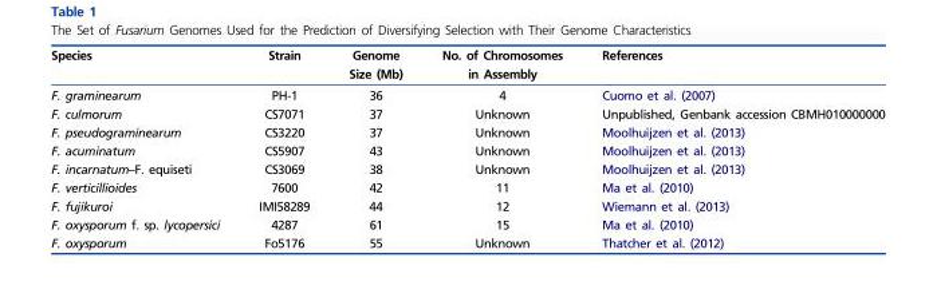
<table><thead><tr><td>Species</td><td>Strain</td><td>Genome Size (Mb)</td><td>No. of Chromosomes in Assembly</td><td>References</td></tr></thead><tbody><tr><td>F. graminearum</td><td>PH-1</td><td>36</td><td>4</td><td>Cuomo et al. (2007)</td></tr><tr><td>F. culmorum</td><td>CS7071</td><td>37</td><td>Unknown</td><td>Unpublished, Genbank accession CBMH010000000</td></tr><tr><td>F. pseudograminearum</td><td>CS3220</td><td>37</td><td>Unknown</td><td>Moolhuijzen et al. (2013)</td></tr><tr><td>F. acuminatum</td><td>CS5907</td><td>43</td><td>Unknown</td><td>Moolhuijzen et al. (2013)</td></tr><tr><td>F. incarnatum–F. equiseti</td><td>CS3069</td><td>38</td><td>Unknown</td><td>Moolhuijzen et al. (2013)</td></tr><tr><td>F. verticillioides</td><td>7600</td><td>42</td><td>11</td><td>Ma et al. (2010)</td></tr><tr><td>F. fujikuroi</td><td>IMI58289</td><td>44</td><td>12</td><td>Wiemann et al. (2013)</td></tr><tr><td>F. oxysporum f. sp. lycopersici</td><td>4287</td><td>61</td><td>15</td><td>Ma et al. (2010)</td></tr><tr><td>F. oxysporum</td><td>Fo5176</td><td>55</td><td>Unknown</td><td>Thatcher et al. (2012)</td></tr></tbody></table>